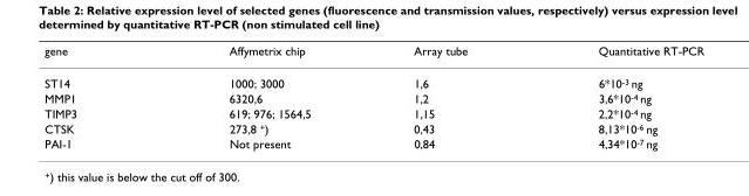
<table><thead><tr><td>gene</td><td>Affymetrix chip</td><td>Array tube</td><td>Quantitative RT-PCR</td></tr></thead><tbody><tr><td>ST14</td><td>1000; 3000</td><td>1,6</td><td>6*10-3 ng</td></tr><tr><td>MMP1</td><td>6320,6</td><td>1,2</td><td>3,6*10-4 ng</td></tr><tr><td>TIMP3</td><td>619; 976; 1564,5</td><td>1,15</td><td>2,2*10-4 ng</td></tr><tr><td>CTSK</td><td>273,8 +)</td><td>0,43</td><td>8,13*10-6 ng</td></tr><tr><td>PAI-1</td><td>Not present</td><td>0,84</td><td>4,34*10-7 ng</td></tr></tbody></table>